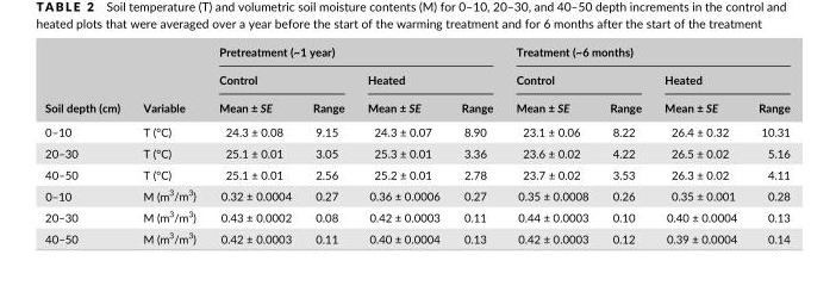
<table><thead><tr><td rowspan="3">Soil depth (cm)</td><td rowspan="3">Variable</td><td colspan="4">Pretreatment (~1 year)</td><td colspan="4">Treatment (~6 months)</td></tr><tr><td colspan="2">Control</td><td colspan="2">Heated</td><td colspan="2">Control</td><td colspan="2">Heated</td></tr><tr><td>Mean ± SE</td><td>Range</td><td>Mean ± SE</td><td>Range</td><td>Mean ± SE</td><td>Range</td><td>Mean ± SE</td><td>Range</td></tr></thead><tbody><tr><td>0–10</td><td>T (°C)</td><td>24.3 ± 0.08</td><td>9.15</td><td>24.3 ± 0.07</td><td>8.90</td><td>23.1 ± 0.06</td><td>8.22</td><td>26.4 ± 0.32</td><td>10.31</td></tr><tr><td>20–30</td><td>T (°C)</td><td>25.1 ± 0.01</td><td>3.05</td><td>25.3 ± 0.01</td><td>3.36</td><td>23.6 ± 0.02</td><td>4.22</td><td>26.5 ± 0.02</td><td>5.16</td></tr><tr><td>40–50</td><td>T (°C)</td><td>25.1 ± 0.01</td><td>2.56</td><td>25.2 ± 0.01</td><td>2.78</td><td>23.7 ± 0.02</td><td>3.53</td><td>26.3 ± 0.02</td><td>4.11</td></tr><tr><td>0–10</td><td>M (m<sup>3</sup>/m<sup>3</sup>)</td><td>0.32 ± 0.0004</td><td>0.27</td><td>0.36 ± 0.0006</td><td>0.27</td><td>0.35 ± 0.0008</td><td>0.26</td><td>0.35 ± 0.001</td><td>0.28</td></tr><tr><td>20–30</td><td>M (m<sup>3</sup>/m<sup>3</sup>)</td><td>0.43 ± 0.0002</td><td>0.08</td><td>0.42 ± 0.0003</td><td>0.11</td><td>0.44 ± 0.0003</td><td>0.10</td><td>0.40 ± 0.0004</td><td>0.13</td></tr><tr><td>40–50</td><td>M (m<sup>3</sup>/m<sup>3</sup>)</td><td>0.42 ± 0.0003</td><td>0.11</td><td>0.40 ± 0.0004</td><td>0.13</td><td>0.42 ± 0.0003</td><td>0.12</td><td>0.39 ± 0.0004</td><td>0.14</td></tr></tbody></table>